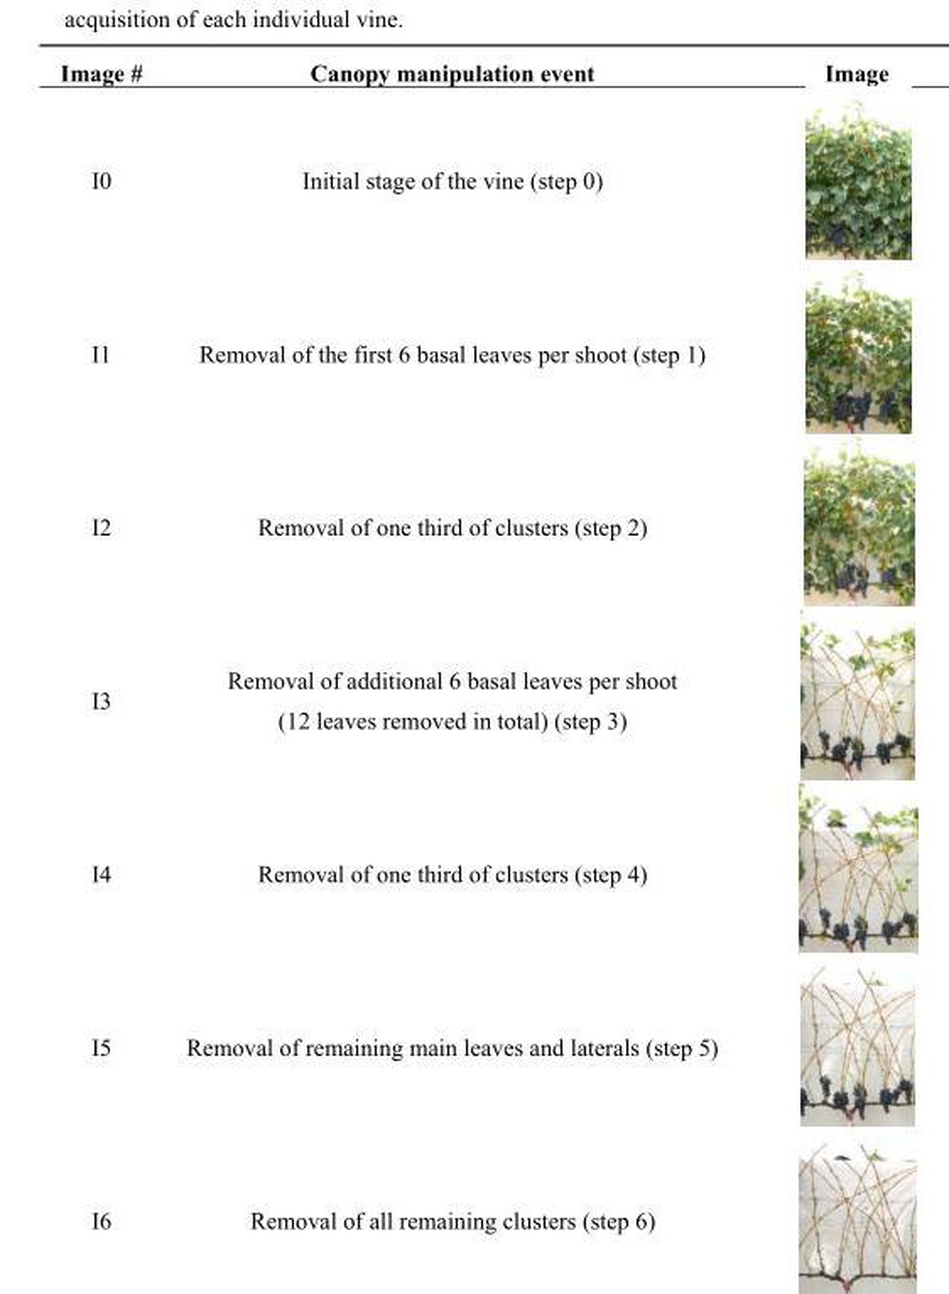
<table><thead><tr><td>Image #</td><td>Canopy manipulation event</td><td>Image</td></tr></thead><tbody><tr><td>I0</td><td>Initial stage of the vine (step 0)</td><td></td></tr><tr><td>I1</td><td>Removal of the first 6 basal leaves per shoot (step 1)</td><td></td></tr><tr><td>I2</td><td>Removal of one third of clusters (step 2)</td><td></td></tr><tr><td>I3</td><td>Removal of additional 6 basal leaves per shoot (12 leaves removed in total) (step 3)</td><td></td></tr><tr><td>I4</td><td>Removal of one third of clusters (step 4)</td><td></td></tr><tr><td>I5</td><td>Removal of remaining main leaves and laterals (step 5)</td><td></td></tr><tr><td>I6</td><td>Removal of all remaining clusters (step 6)</td><td></td></tr></tbody></table>